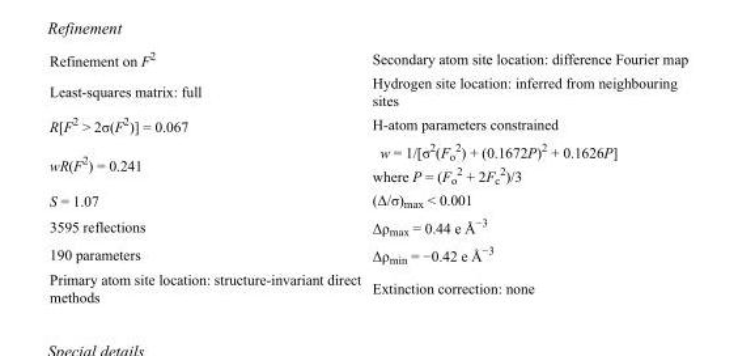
<table><tbody><tr><td>Refinement on F<sup>2</sup></td><td>Secondary atom site location: difference Fourier map</td></tr><tr><td>Least-squares matrix: full</td><td>Hydrogen site location: inferred from neighbouring sites</td></tr><tr><td>R[F<sup>2</sup> &gt; 2σ(F<sup>2</sup>)] = 0.067</td><td>H-atom parameters constrained</td></tr><tr><td>wR(F<sup>2</sup>) = 0.241</td><td>w = 1/[σ<sup>2</sup>(F<sub>o</sub> <sup>2</sup>) + (0.1672P)<sup>2</sup> + 0.1626P] where P = (F<sub>o</sub> <sup>2</sup> + 2F<sub>c</sub> <sup>2</sup>)/3</td></tr><tr><td>S = 1.07</td><td>(Δ/σ)<sub>max</sub> &lt; 0.001</td></tr><tr><td>3595 reflections</td><td>Δρ<sub>max</sub> = 0.44 e Å<sup>−3</sup></td></tr><tr><td>190 parameters</td><td>Δρ<sub>min</sub> = −0.42 e Å<sup>−3</sup></td></tr><tr><td>Primary atom site location: structure-invariant direct methods</td><td>Extinction correction: none</td></tr></tbody></table>